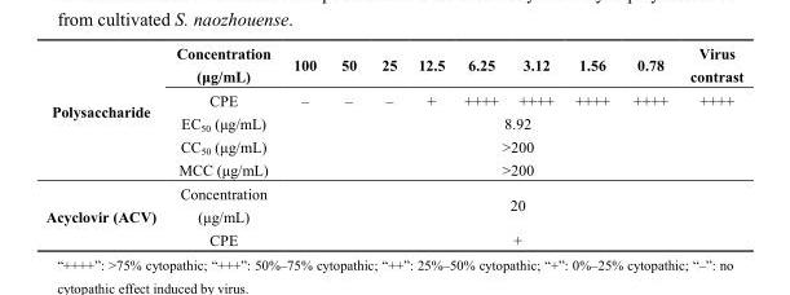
<table><tbody><tr><td rowspan="5">Polysaccharide</td><td>Concentration (μg/mL)</td><td>100</td><td>50</td><td>25</td><td>12.5</td><td>6.25</td><td>3.12</td><td>1.56</td><td>0.78</td><td>Virus contrast</td></tr><tr><td>CPE</td><td>–</td><td>–</td><td>–</td><td>+</td><td>++++</td><td>++++</td><td>++++</td><td>++++</td><td>++++</td></tr><tr><td>EC<sub>50</sub> (μg/mL)</td><td colspan="9">8.92</td></tr><tr><td>CC<sub>50</sub> (μg/mL)</td><td colspan="9">&gt;200</td></tr><tr><td>MCC (μg/mL)</td><td colspan="9">&gt;200</td></tr><tr><td rowspan="2">Acyclovir (ACV)</td><td>Concentration (μg/mL)</td><td colspan="9">20</td></tr><tr><td>CPE</td><td colspan="9">+</td></tr></tbody></table>